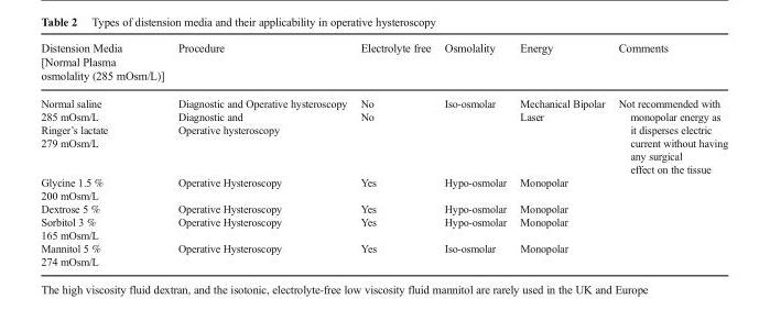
<table><thead><tr><td>Distension Media [Normal Plasma osmolality (285 mOsm/L)]</td><td>Procedure</td><td>Electrolyte free</td><td>Osmolality</td><td>Energy</td><td>Comments</td></tr></thead><tbody><tr><td>Normal saline 285 mOsm/L Ringer’s lactate 279 mOsm/L</td><td>Diagnostic and Operative hysteroscopy Diagnostic and Operative hysteroscopy</td><td>No No</td><td>Iso-osmolar</td><td>Mechanical Bipolar Laser</td><td>Not recommended with monopolar energy as it disperses electric current without having any surgical effect on the tissue</td></tr><tr><td>Glycine 1.5 % 200 mOsm/L</td><td>Operative Hysteroscopy</td><td>Yes</td><td>Hypo-osmolar</td><td>Monopolar</td><td rowspan="4"></td></tr><tr><td>Dextrose 5 %</td><td>Operative Hysteroscopy</td><td>Yes</td><td>Hypo-osmolar</td><td>Monopolar</td></tr><tr><td>Sorbitol 3 % 165 mOsm/L</td><td>Operative Hysteroscopy</td><td>Yes</td><td>Hypo-osmolar</td><td>Monopolar</td></tr><tr><td>Mannitol 5 % 274 mOsm/L</td><td>Operative Hysteroscopy</td><td>Yes</td><td>Iso-osmolar</td><td>Monopolar</td></tr></tbody></table>